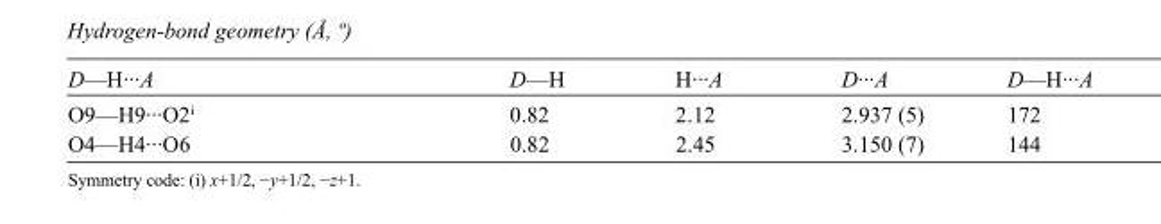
<table><tbody><tr><td>D—H···A</td><td>D—H</td><td>H···A</td><td>D···A</td><td>D—H···A</td></tr><tr><td>O9—H9···O2<sup>i</sup></td><td>0.82</td><td>2.12</td><td>2.937 (5)</td><td>172</td></tr><tr><td>O4—H4···O6</td><td>0.82</td><td>2.45</td><td>3.150 (7)</td><td>144</td></tr></tbody></table>